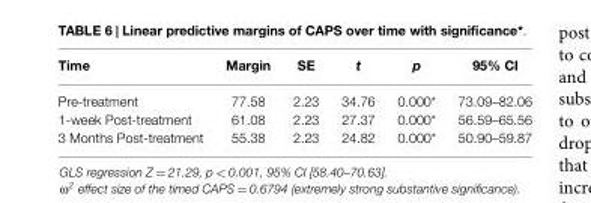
<table><thead><tr><td>Time</td><td>Margin</td><td>SE</td><td>t</td><td>p</td><td>95% CI</td></tr></thead><tbody><tr><td>Pre-treatment</td><td>77.58</td><td>2.23</td><td>34.76</td><td>0.000*</td><td>73.09–82.06</td></tr><tr><td>1-week Post-treatment</td><td>61.08</td><td>2.23</td><td>27.37</td><td>0.000*</td><td>56.59–65.56</td></tr><tr><td>3 Months Post-treatment</td><td>55.38</td><td>2.23</td><td>24.82</td><td>0.000*</td><td>50.90–59.87</td></tr></tbody></table>